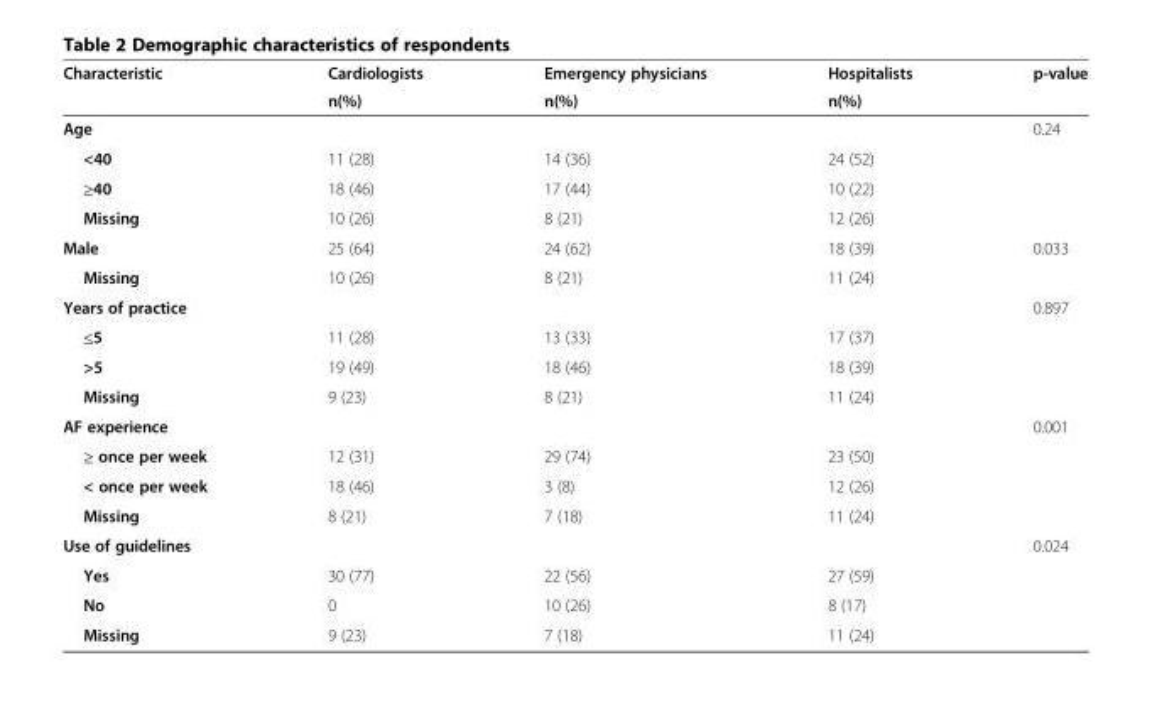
<table><thead><tr><td rowspan="2">Characteristic</td><td rowspan="2">Cardiologists n(%)</td><td rowspan="2">Emergency physicians n(%)</td><td rowspan="2">Hospitalists n(%)</td><td rowspan="2">p-value</td></tr><tr></tr></thead><tbody><tr><td colspan="4">Age</td><td rowspan="4">0.24</td></tr><tr><td>&lt;40</td><td>11 (28)</td><td>14 (36)</td><td>24 (52)</td></tr><tr><td>≥40</td><td>18 (46)</td><td>17 (44)</td><td>10 (22)</td></tr><tr><td>Missing</td><td>10 (26)</td><td>8 (21)</td><td>12 (26)</td></tr><tr><td>Male</td><td>25 (64)</td><td>24 (62)</td><td>18 (39)</td><td rowspan="2">0.033</td></tr><tr><td>Missing</td><td>10 (26)</td><td>8 (21)</td><td>11 (24)</td></tr><tr><td colspan="4">Years of practice</td><td rowspan="4">0.897</td></tr><tr><td>≤5</td><td>11 (28)</td><td>13 (33)</td><td>17 (37)</td></tr><tr><td>&gt;5</td><td>19 (49)</td><td>18 (46)</td><td>18 (39)</td></tr><tr><td>Missing</td><td>9 (23)</td><td>8 (21)</td><td>11 (24)</td></tr><tr><td colspan="4">AF experience</td><td rowspan="4">0.001</td></tr><tr><td>≥ once per week</td><td>12 (31)</td><td>29 (74)</td><td>23 (50)</td></tr><tr><td>&lt; once per week</td><td>18 (46)</td><td>3 (8)</td><td>12 (26)</td></tr><tr><td>Missing</td><td>8 (21)</td><td>7 (18)</td><td>11 (24)</td></tr><tr><td colspan="4">Use of guidelines</td><td rowspan="2">0.024</td></tr><tr><td>Yes</td><td>30 (77)</td><td>22 (56)</td><td>27 (59)</td></tr><tr><td>No</td><td>0</td><td>10 (26)</td><td>8 (17)</td><td rowspan="2"></td></tr><tr><td>Missing</td><td>9 (23)</td><td>7 (18)</td><td>11 (24)</td></tr></tbody></table>